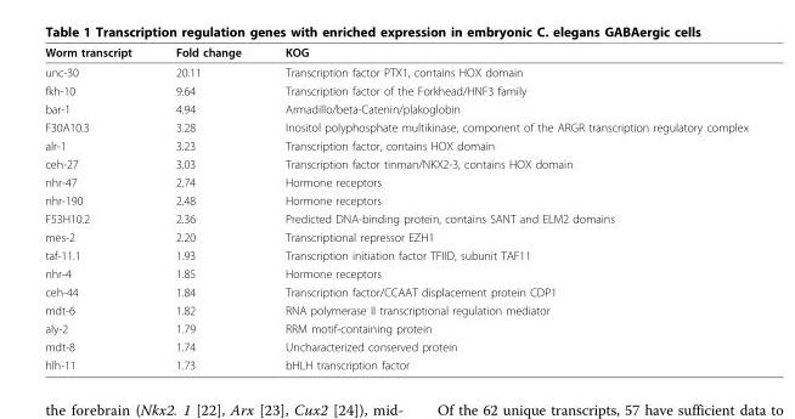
<table><thead><tr><td>Worm transcript</td><td>Fold change</td><td>KOG</td></tr></thead><tbody><tr><td>unc-30</td><td>20.11</td><td>Transcription factor PTX1, contains HOX domain</td></tr><tr><td>fkh-10</td><td>9.64</td><td>Transcription factor of the Forkhead/HNF3 family</td></tr><tr><td>bar-1</td><td>4.94</td><td>Armadillo/beta-Catenin/plakoglobin</td></tr><tr><td>F30A10.3</td><td>3.28</td><td>Inositol polyphosphate multikinase, component of the ARGR transcription regulatory complex</td></tr><tr><td>alr-1</td><td>3.23</td><td>Transcription factor, contains HOX domain</td></tr><tr><td>ceh-27</td><td>3.03</td><td>Transcription factor tinman/NKX2-3, contains HOX domain</td></tr><tr><td>nhr-47</td><td>2.74</td><td>Hormone receptors</td></tr><tr><td>nhr-190</td><td>2.48</td><td>Hormone receptors</td></tr><tr><td>F53H10.2</td><td>2.36</td><td>Predicted DNA-binding protein, contains SANT and ELM2 domains</td></tr><tr><td>mes-2</td><td>2.20</td><td>Transcriptional repressor EZH1</td></tr><tr><td>taf-11.1</td><td>1.93</td><td>Transcription initiation factor TFIID, subunit TAF11</td></tr><tr><td>nhr-4</td><td>1.85</td><td>Hormone receptors</td></tr><tr><td>ceh-44</td><td>1.84</td><td>Transcription factor/CCAAT displacement protein CDP1</td></tr><tr><td>mdt-6</td><td>1.82</td><td>RNA polymerase II transcriptional regulation mediator</td></tr><tr><td>aly-2</td><td>1.79</td><td>RRM motif-containing protein</td></tr><tr><td>mdt-8</td><td>1.74</td><td>Uncharacterized conserved protein</td></tr><tr><td>hlh-11</td><td>1.73</td><td>bHLH transcription factor</td></tr></tbody></table>